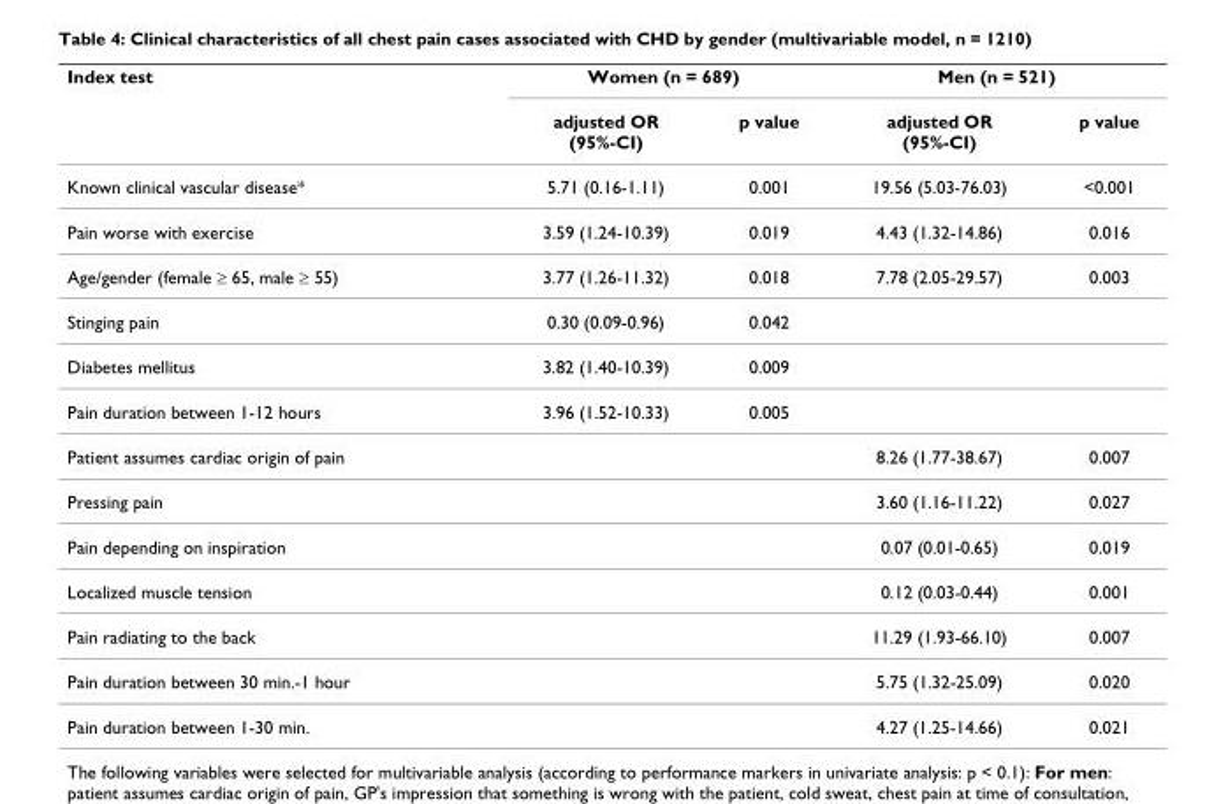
<table><thead><tr><td rowspan="2">Index test</td><td colspan="2">Women (n = 689)</td><td colspan="2">Men (n = 521)</td></tr><tr><td>adjusted OR (95%-CI)</td><td>p value</td><td>adjusted OR (95%-CI)</td><td>p value</td></tr></thead><tbody><tr><td>Known clinical vascular disease*</td><td>5.71 (0.16-1.11)</td><td>0.001</td><td>19.56 (5.03-76.03)</td><td>&lt;0.001</td></tr><tr><td>Pain worse with exercise</td><td>3.59 (1.24-10.39)</td><td>0.019</td><td>4.43 (1.32-14.86)</td><td>0.016</td></tr><tr><td>Age/gender (female ≥ 65, male ≥ 55)</td><td>3.77 (1.26-11.32)</td><td>0.018</td><td>7.78 (2.05-29.57)</td><td>0.003</td></tr><tr><td>Stinging pain</td><td>0.30 (0.09-0.96)</td><td>0.042</td><td></td><td></td></tr><tr><td>Diabetes mellitus</td><td>3.82 (1.40-10.39)</td><td>0.009</td><td></td><td></td></tr><tr><td>Pain duration between 1-12 hours</td><td>3.96 (1.52-10.33)</td><td>0.005</td><td></td><td></td></tr><tr><td>Patient assumes cardiac origin of pain</td><td></td><td></td><td>8.26 (1.77-38.67)</td><td>0.007</td></tr><tr><td>Pressing pain</td><td></td><td></td><td>3.60 (1.16-11.22)</td><td>0.027</td></tr><tr><td>Pain depending on inspiration</td><td></td><td></td><td>0.07 (0.01-0.65)</td><td>0.019</td></tr><tr><td>Localized muscle tension</td><td></td><td></td><td>0.12 (0.03-0.44)</td><td>0.001</td></tr><tr><td>Pain radiating to the back</td><td></td><td></td><td>11.29 (1.93-66.10)</td><td>0.007</td></tr><tr><td>Pain duration between 30 min.-1 hour</td><td></td><td></td><td>5.75 (1.32-25.09)</td><td>0.020</td></tr><tr><td>Pain duration between 1-30 min.</td><td></td><td></td><td>4.27 (1.25-14.66)</td><td>0.021</td></tr></tbody></table>